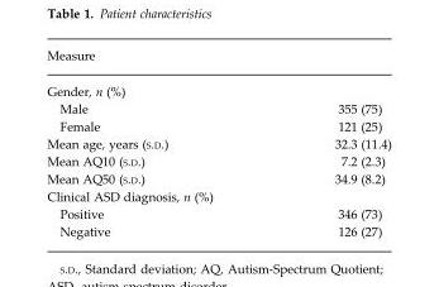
<table><thead><tr><td>Measure</td><td></td></tr></thead><tbody><tr><td colspan="2">Gender, n (%)</td></tr><tr><td>Male</td><td>355 (75)</td></tr><tr><td>Female</td><td>121 (25)</td></tr><tr><td>Mean age, years (S.D.)</td><td>32.3 (11.4)</td></tr><tr><td>Mean AQ10 (S.D.)</td><td>7.2 (2.3)</td></tr><tr><td>Mean AQ50 (S.D.)</td><td>34.9 (8.2)</td></tr><tr><td colspan="2">Clinical ASD diagnosis, n (%)</td></tr><tr><td>Positive</td><td>346 (73)</td></tr><tr><td>Negative</td><td>126 (27)</td></tr></tbody></table>